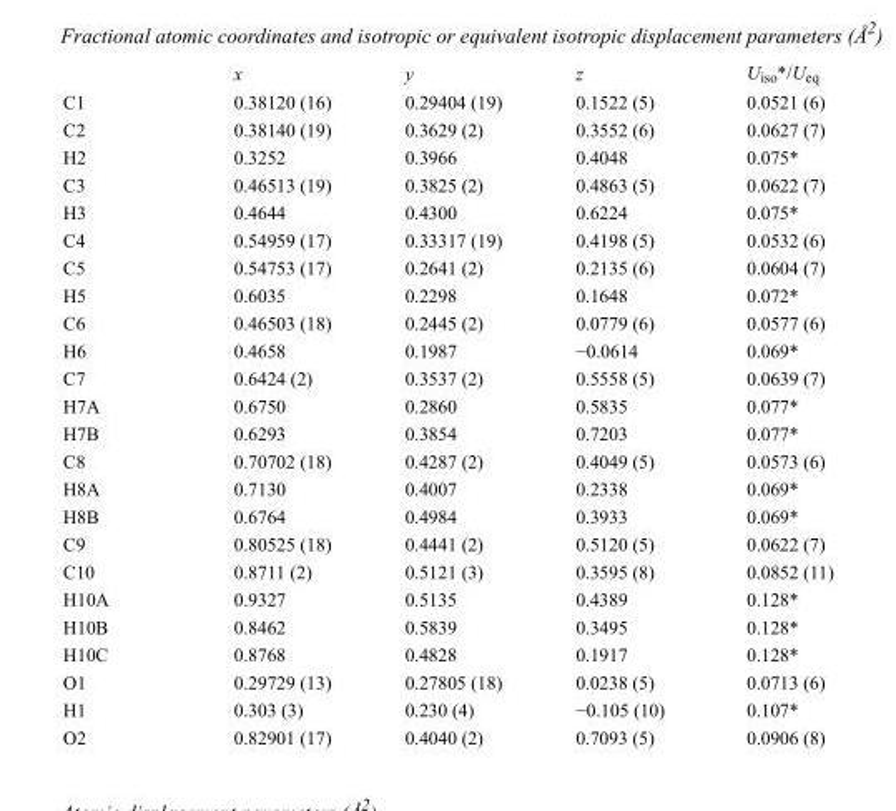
<table><thead><tr><td></td><td>x</td><td>y</td><td>z</td><td>U<sub>iso</sub>*/U<sub>eq</sub></td></tr></thead><tbody><tr><td>C1</td><td>0.38120 (16)</td><td>0.29404 (19)</td><td>0.1522 (5)</td><td>0.0521 (6)</td></tr><tr><td>C2</td><td>0.38140 (19)</td><td>0.3629 (2)</td><td>0.3552 (6)</td><td>0.0627 (7)</td></tr><tr><td>H2</td><td>0.3252</td><td>0.3966</td><td>0.4048</td><td>0.075*</td></tr><tr><td>C3</td><td>0.46513 (19)</td><td>0.3825 (2)</td><td>0.4863 (5)</td><td>0.0622 (7)</td></tr><tr><td>H3</td><td>0.4644</td><td>0.4300</td><td>0.6224</td><td>0.075*</td></tr><tr><td>C4</td><td>0.54959 (17)</td><td>0.33317 (19)</td><td>0.4198 (5)</td><td>0.0532 (6)</td></tr><tr><td>C5</td><td>0.54753 (17)</td><td>0.2641 (2)</td><td>0.2135 (6)</td><td>0.0604 (7)</td></tr><tr><td>H5</td><td>0.6035</td><td>0.2298</td><td>0.1648</td><td>0.072*</td></tr><tr><td>C6</td><td>0.46503 (18)</td><td>0.2445 (2)</td><td>0.0779 (6)</td><td>0.0577 (6)</td></tr><tr><td>H6</td><td>0.4658</td><td>0.1987</td><td>−0.0614</td><td>0.069*</td></tr><tr><td>C7</td><td>0.6424 (2)</td><td>0.3537 (2)</td><td>0.5558 (5)</td><td>0.0639 (7)</td></tr><tr><td>H7A</td><td>0.6750</td><td>0.2860</td><td>0.5835</td><td>0.077*</td></tr><tr><td>H7B</td><td>0.6293</td><td>0.3854</td><td>0.7203</td><td>0.077*</td></tr><tr><td>C8</td><td>0.70702 (18)</td><td>0.4287 (2)</td><td>0.4049 (5)</td><td>0.0573 (6)</td></tr><tr><td>H8A</td><td>0.7130</td><td>0.4007</td><td>0.2338</td><td>0.069*</td></tr><tr><td>H8B</td><td>0.6764</td><td>0.4984</td><td>0.3933</td><td>0.069*</td></tr><tr><td>C9</td><td>0.80525 (18)</td><td>0.4441 (2)</td><td>0.5120 (5)</td><td>0.0622 (7)</td></tr><tr><td>C10</td><td>0.8711 (2)</td><td>0.5121 (3)</td><td>0.3595 (8)</td><td>0.0852 (11)</td></tr><tr><td>H10A</td><td>0.9327</td><td>0.5135</td><td>0.4389</td><td>0.128*</td></tr><tr><td>H10B</td><td>0.8462</td><td>0.5839</td><td>0.3495</td><td>0.128*</td></tr><tr><td>H10C</td><td>0.8768</td><td>0.4828</td><td>0.1917</td><td>0.128*</td></tr><tr><td>O1</td><td>0.29729 (13)</td><td>0.27805 (18)</td><td>0.0238 (5)</td><td>0.0713 (6)</td></tr><tr><td>H1</td><td>0.303 (3)</td><td>0.230 (4)</td><td>−0.105 (10)</td><td>0.107*</td></tr><tr><td>O2</td><td>0.82901 (17)</td><td>0.4040 (2)</td><td>0.7093 (5)</td><td>0.0906 (8)</td></tr></tbody></table>